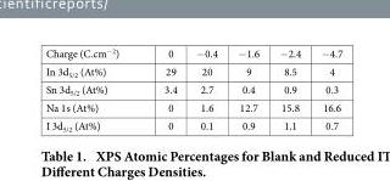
<table><tbody><tr><td>Charge (C.cm<sup>−2</sup>)</td><td>0</td><td>− 0.4</td><td>− 1.6</td><td>− 2.4</td><td>− 4.7</td></tr><tr><td>In 3d<sub>5/2</sub> (At%)</td><td>29</td><td>20</td><td>9</td><td>8.5</td><td>4</td></tr><tr><td>Sn 3d<sub>5/2</sub> (At%)</td><td>3.4</td><td>2.7</td><td>0.4</td><td>0.9</td><td>0.3</td></tr><tr><td>Na 1s (At%)</td><td>0</td><td>1.6</td><td>12.7</td><td>15.8</td><td>16.6</td></tr><tr><td>I 3d<sub>5/2</sub> (At%)</td><td>0</td><td>0.1</td><td>0.9</td><td>1.1</td><td>0.7</td></tr></tbody></table>